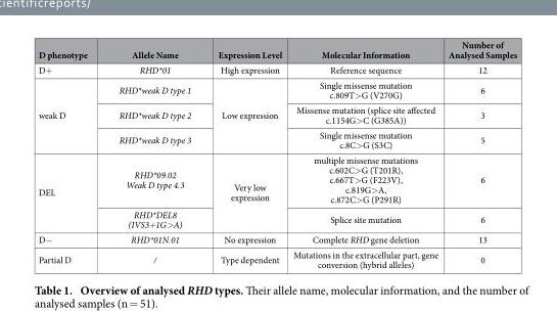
<table><thead><tr><td>D phenotype</td><td>Allele Name</td><td>Expression Level</td><td>Molecular Information</td><td>Number of Analysed Samples</td></tr></thead><tbody><tr><td>D+</td><td>RHD*01</td><td>High expression</td><td>Reference sequence</td><td>12</td></tr><tr><td rowspan="3">weak D</td><td>RHD*weak D type 1</td><td rowspan="3">Low expression</td><td>Single missense mutation c.809T&gt; G (V270G)</td><td>6</td></tr><tr><td>RHD*weak D type 2</td><td>Missense mutation (splice site affected c.1154G&gt; C (G385A))</td><td>3</td></tr><tr><td>RHD*weak D type 3</td><td>Single missense mutation c.8C&gt; G (S3C)</td><td>5</td></tr><tr><td rowspan="2">DEL</td><td>RHD*09.02 Weak D type 4.3</td><td rowspan="2">Very low expression</td><td>multiple missense mutations c.602C&gt; G (T201R), c.667T&gt; G (F223V), c.819G&gt; A, c.872C&gt; G (P291R)</td><td>6</td></tr><tr><td>RHD*DEL8 (IVS3+1G&gt;A)</td><td>Splice site mutation</td><td>6</td></tr><tr><td>D−</td><td>RHD*01N.01</td><td>No expression</td><td>Complete RHD gene deletion</td><td>13</td></tr><tr><td>Partial D</td><td>/</td><td>Type dependent</td><td>Mutations in the extracellular part, gene conversion (hybrid alleles)</td><td>0</td></tr></tbody></table>